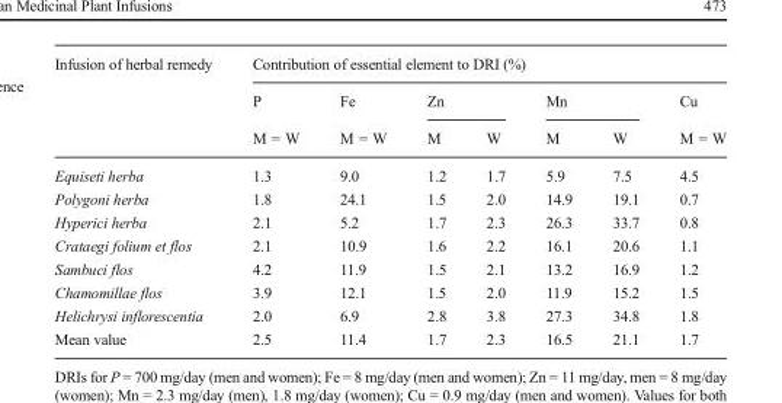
<table><thead><tr><td rowspan="3">Infusion of herbal remedy</td><td colspan="7">Contribution of essential element to DRI (%)</td></tr><tr><td rowspan="2">P M = W</td><td rowspan="2">Fe M = W</td><td colspan="2">Zn</td><td colspan="2">Mn</td><td rowspan="2">Cu M = W</td></tr><tr><td>M</td><td>W</td><td>M</td><td>W</td></tr></thead><tbody><tr><td>Equiseti herba</td><td>1.3</td><td>9.0</td><td>1.2</td><td>1.7</td><td>5.9</td><td>7.5</td><td>4.5</td></tr><tr><td>Polygoni herba</td><td>1.8</td><td>24.1</td><td>1.5</td><td>2.0</td><td>14.9</td><td>19.1</td><td>0.7</td></tr><tr><td>Hyperici herba</td><td>2.1</td><td>5.2</td><td>1.7</td><td>2.3</td><td>26.3</td><td>33.7</td><td>0.8</td></tr><tr><td>Crataegi folium et flos</td><td>2.1</td><td>10.9</td><td>1.6</td><td>2.2</td><td>16.1</td><td>20.6</td><td>1.1</td></tr><tr><td>Sambuci flos</td><td>4.2</td><td>11.9</td><td>1.5</td><td>2.1</td><td>13.2</td><td>16.9</td><td>1.2</td></tr><tr><td>Chamomillae flos</td><td>3.9</td><td>12.1</td><td>1.5</td><td>2.0</td><td>11.9</td><td>15.2</td><td>1.5</td></tr><tr><td>Helichrysi inflorescentia</td><td>2.0</td><td>6.9</td><td>2.8</td><td>3.8</td><td>27.3</td><td>34.8</td><td>1.8</td></tr><tr><td>Mean value</td><td>2.5</td><td>11.4</td><td>1.7</td><td>2.3</td><td>16.5</td><td>21.1</td><td>1.7</td></tr></tbody></table>